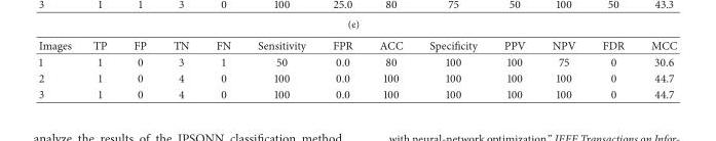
<table><thead><tr><td>Images</td><td>TP</td><td>FP</td><td>TN</td><td>FN</td><td>Sensitivity</td><td>FPR</td><td>ACC</td><td>Specificity</td><td>PPV</td><td>NPV</td><td>FDR</td><td>MCC</td></tr></thead><tbody><tr><td>1</td><td>1</td><td>0</td><td>3</td><td>1</td><td>50</td><td>0.0</td><td>80</td><td>100</td><td>100</td><td>75</td><td>0</td><td>30.6</td></tr><tr><td>2</td><td>1</td><td>0</td><td>4</td><td>0</td><td>100</td><td>0.0</td><td>100</td><td>100</td><td>100</td><td>100</td><td>0</td><td>44.7</td></tr><tr><td>3</td><td>1</td><td>0</td><td>4</td><td>0</td><td>100</td><td>0.0</td><td>100</td><td>100</td><td>100</td><td>100</td><td>0</td><td>44.7</td></tr></tbody></table>